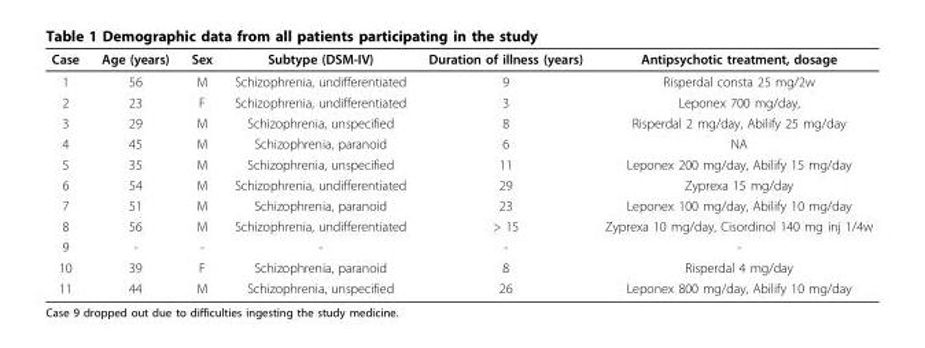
<table><thead><tr><td>Case</td><td>Age (years)</td><td>Sex</td><td>Subtype (DSM-IV)</td><td>Duration of illness (years)</td><td>Antipsychotic treatment, dosage</td></tr></thead><tbody><tr><td>1</td><td>56</td><td>M</td><td>Schizophrenia, undifferentiated</td><td>9</td><td>Risperdal consta 25 mg/2w</td></tr><tr><td>2</td><td>23</td><td>F</td><td>Schizophrenia, undifferentiated</td><td>3</td><td>Leponex 700 mg/day,</td></tr><tr><td>3</td><td>29</td><td>M</td><td>Schizophrenia, unspecified</td><td>8</td><td>Risperdal 2 mg/day, Abilify 25 mg/day</td></tr><tr><td>4</td><td>45</td><td>M</td><td>Schizophrenia, paranoid</td><td>6</td><td>NA</td></tr><tr><td>5</td><td>35</td><td>M</td><td>Schizophrenia, unspecified</td><td>11</td><td>Leponex 200 mg/day, Abilify 15 mg/day</td></tr><tr><td>6</td><td>54</td><td>M</td><td>Schizophrenia, undifferentiated</td><td>29</td><td>Zyprexa 15 mg/day</td></tr><tr><td>7</td><td>51</td><td>M</td><td>Schizophrenia, paranoid</td><td>23</td><td>Leponex 100 mg/day, Abilify 10 mg/day</td></tr><tr><td>8</td><td>56</td><td>M</td><td>Schizophrenia, undifferentiated</td><td>&gt; 15</td><td>Zyprexa 10 mg/day, Cisordinol 140 mg inj 1/4w</td></tr><tr><td>9</td><td>-</td><td>-</td><td>-</td><td>-</td><td>-</td></tr><tr><td>10</td><td>39</td><td>F</td><td>Schizophrenia, paranoid</td><td>8</td><td>Risperdal 4 mg/day</td></tr><tr><td>11</td><td>44</td><td>M</td><td>Schizophrenia, unspecified</td><td>26</td><td>Leponex 800 mg/day, Abilify 10 mg/day</td></tr></tbody></table>